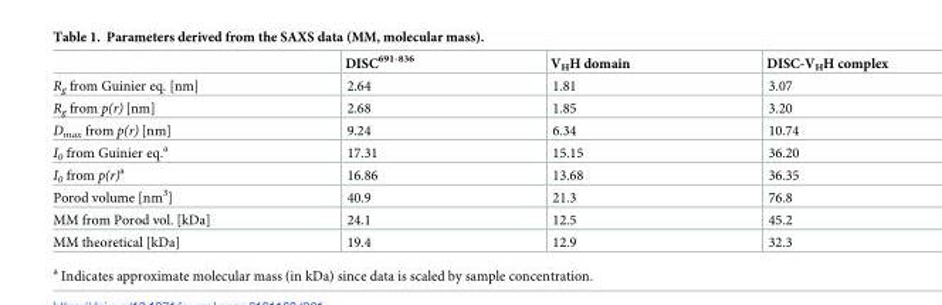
<table><thead><tr><td></td><td>DISC<sup>691-836</sup></td><td>V<sub>H</sub>H domain</td><td>DISC-V<sub>H</sub>H complex</td></tr></thead><tbody><tr><td>R<sub>g</sub> from Guinier eq. [nm]</td><td>2.64</td><td>1.81</td><td>3.07</td></tr><tr><td>R<sub>g</sub> from p(r) [nm]</td><td>2.68</td><td>1.85</td><td>3.20</td></tr><tr><td>D<sub>max</sub> from p(r) [nm]</td><td>9.24</td><td>6.34</td><td>10.74</td></tr><tr><td>I<sub>0</sub> from Guinier eq.<sup>a</sup></td><td>17.31</td><td>15.15</td><td>36.20</td></tr><tr><td>I<sub>0</sub> from p(r)<sup>a</sup></td><td>16.86</td><td>13.68</td><td>36.35</td></tr><tr><td>Porod volume [nm<sup>3</sup>]</td><td>40.9</td><td>21.3</td><td>76.8</td></tr><tr><td>MM from Porod vol. [kDa]</td><td>24.1</td><td>12.5</td><td>45.2</td></tr><tr><td>MM theoretical [kDa]</td><td>19.4</td><td>12.9</td><td>32.3</td></tr></tbody></table>